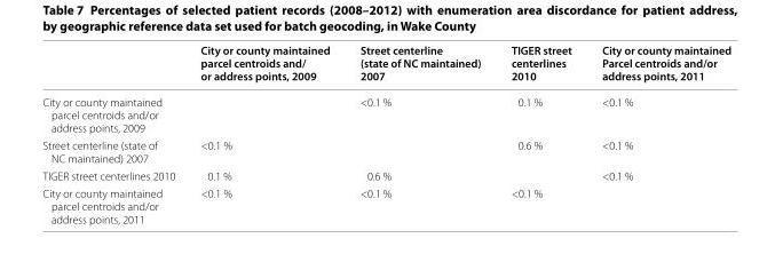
<table><thead><tr><td></td><td>City or county maintained parcel centroids and/ or address points, 2009</td><td>Street centerline (state of NC maintained) 2007</td><td>TIGER street centerlines 2010</td><td>City or county maintained Parcel centroids and/or address points, 2011</td></tr></thead><tbody><tr><td>City or county maintained parcel centroids and/or address points, 2009</td><td></td><td>&lt;0.1 %</td><td>0.1 %</td><td>&lt;0.1 %</td></tr><tr><td>Street centerline (state of NC maintained) 2007</td><td>&lt;0.1 %</td><td></td><td>0.6 %</td><td>&lt;0.1 %</td></tr><tr><td>TIGER street centerlines 2010</td><td>0.1 %</td><td>0.6 %</td><td></td><td>&lt;0.1 %</td></tr><tr><td>City or county maintained parcel centroids and/or address points, 2011</td><td>&lt;0.1 %</td><td>&lt;0.1 %</td><td>&lt;0.1 %</td><td></td></tr></tbody></table>